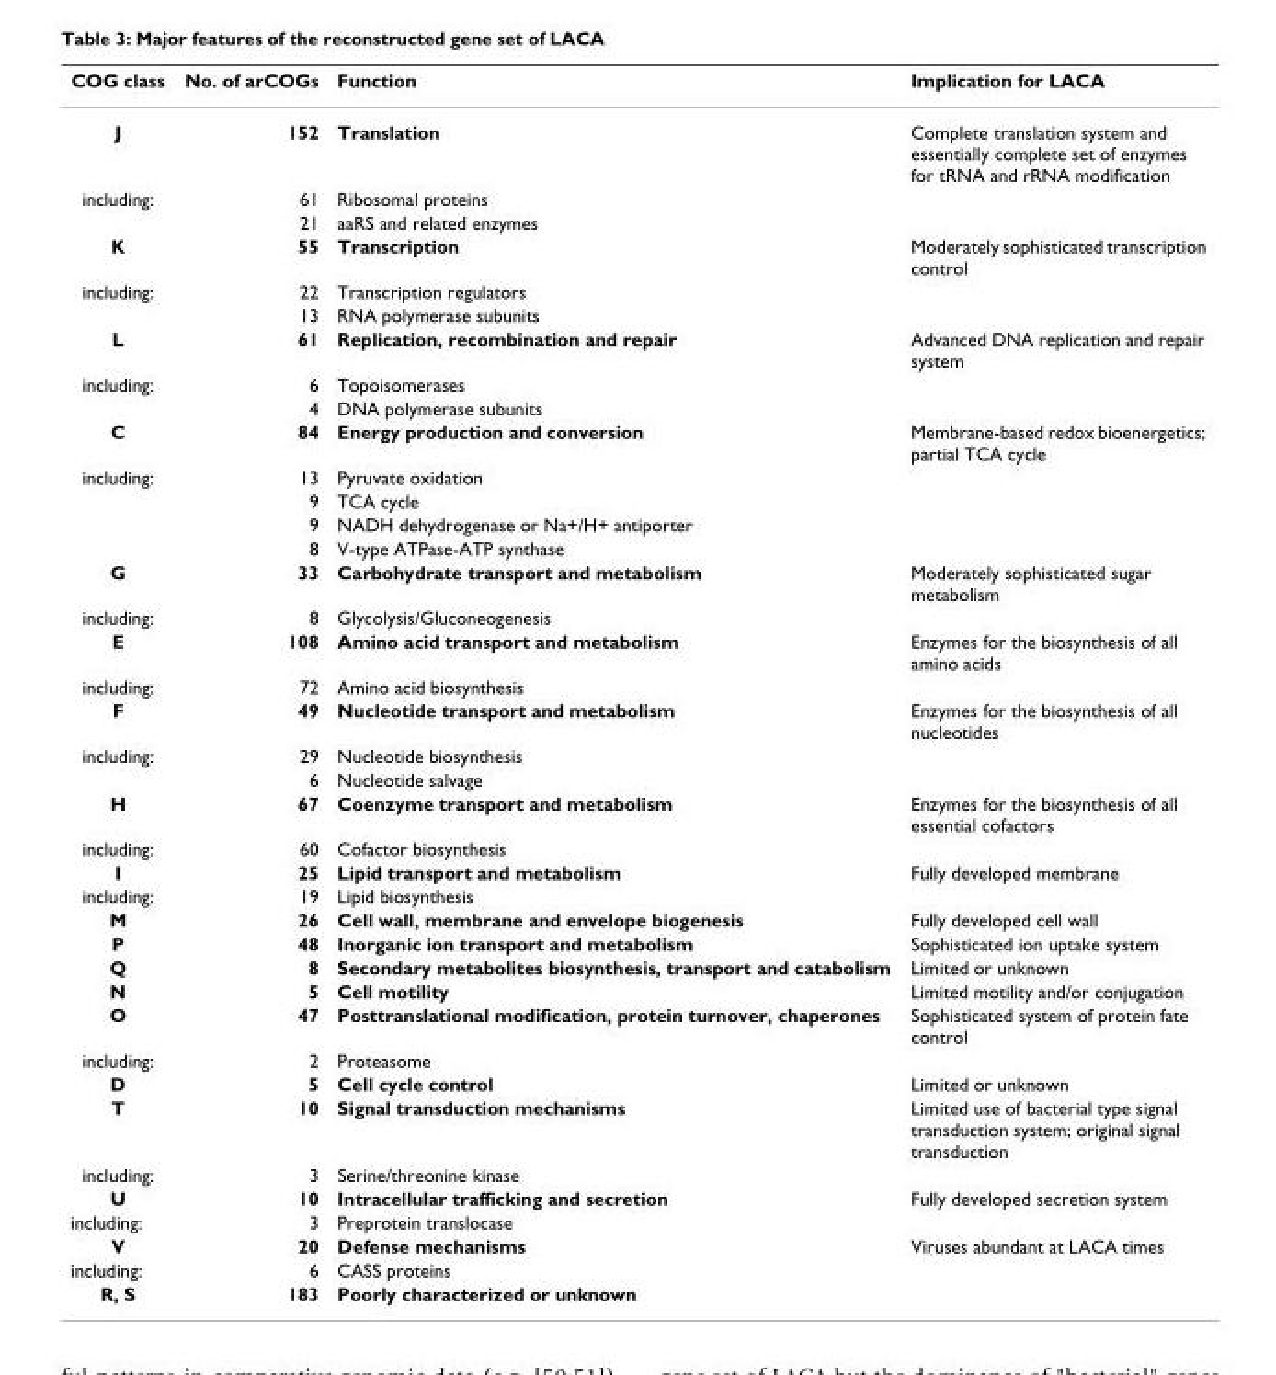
<table><thead><tr><td>COG class</td><td>No. of arCOGs</td><td>Function</td><td>Implication for LACA</td></tr></thead><tbody><tr><td>J</td><td>152</td><td>Translation</td><td>Complete translation system and essentially complete set of enzymes for tRNA and rRNA modification</td></tr><tr><td rowspan="2">including:</td><td>61</td><td>Ribosomal proteins</td><td></td></tr><tr><td>21</td><td>aaRS and related enzymes</td><td></td></tr><tr><td>K</td><td>55</td><td>Transcription</td><td>Moderately sophisticated transcription control</td></tr><tr><td rowspan="2">including:</td><td>22</td><td>Transcription regulators</td><td></td></tr><tr><td>13</td><td>RNA polymerase subunits</td><td></td></tr><tr><td>L</td><td>61</td><td>Replication, recombination and repair</td><td>Advanced DNA replication and repair system</td></tr><tr><td rowspan="2">including:</td><td>6</td><td>Topoisomerases</td><td></td></tr><tr><td>4</td><td>DNA polymerase subunits</td><td></td></tr><tr><td>C</td><td>84</td><td>Energy production and conversion</td><td>Membrane-based redox bioenergetics; partial TCA cycle</td></tr><tr><td rowspan="4">including:</td><td>13</td><td>Pyruvate oxidation</td><td></td></tr><tr><td>9</td><td>TCA cycle</td><td></td></tr><tr><td>9</td><td>NADH dehydrogenase or Na+/H+ antiporter</td><td></td></tr><tr><td>8</td><td>V-type ATPase-ATP synthase</td><td></td></tr><tr><td>G</td><td>33</td><td>Carbohydrate transport and metabolism</td><td>Moderately sophisticated sugar metabolism</td></tr><tr><td>including:</td><td>8</td><td>Glycolysis/Gluconeogenesis</td><td></td></tr><tr><td>E</td><td>108</td><td>Amino acid transport and metabolism</td><td>Enzymes for the biosynthesis of all amino acids</td></tr><tr><td>including:</td><td>72</td><td>Amino acid biosynthesis</td><td></td></tr><tr><td>F</td><td>49</td><td>Nucleotide transport and metabolism</td><td>Enzymes for the biosynthesis of all nucleotides</td></tr><tr><td rowspan="2">including:</td><td>29</td><td>Nucleotide biosynthesis</td><td></td></tr><tr><td>6</td><td>Nucleotide salvage</td><td></td></tr><tr><td>H</td><td>67</td><td>Coenzyme transport and metabolism</td><td>Enzymes for the biosynthesis of all essential cofactors</td></tr><tr><td>including:</td><td>60</td><td>Cofactor biosynthesis</td><td></td></tr><tr><td>I</td><td>25</td><td>Lipid transport and metabolism</td><td>Fully developed membrane</td></tr><tr><td>including:</td><td>19</td><td>Lipid biosynthesis</td><td></td></tr><tr><td>M</td><td>26</td><td>Cell wall, membrane and envelope biogenesis</td><td>Fully developed cell wall</td></tr><tr><td>P</td><td>48</td><td>Inorganic ion transport and metabolism</td><td>Sophisticated ion uptake system</td></tr><tr><td>Q</td><td>8</td><td>Secondary metabolites biosynthesis, transport and catabolism</td><td>Limited or unknown</td></tr><tr><td>N</td><td>5</td><td>Cell motility</td><td>Limited motility and/or conjugation</td></tr><tr><td>O</td><td>47</td><td>Posttranslational modification, protein turnover, chaperones</td><td>Sophisticated system of protein fate control</td></tr><tr><td>including:</td><td>2</td><td>Proteasome</td><td></td></tr><tr><td>D</td><td>5</td><td>Cell cycle control</td><td>Limited or unknown</td></tr><tr><td>T</td><td>10</td><td>Signal transduction mechanisms</td><td>Limited use of bacterial type signal transduction system; original signal transduction</td></tr><tr><td>including:</td><td>3</td><td>Serine/threonine kinase</td><td></td></tr><tr><td>U</td><td>10</td><td>Intracellular trafficking and secretion</td><td>Fully developed secretion system</td></tr><tr><td>including:</td><td>3</td><td>Preprotein translocase</td><td></td></tr><tr><td>V</td><td>20</td><td>Defense mechanisms</td><td>Viruses abundant at LACA times</td></tr><tr><td>including:</td><td>6</td><td>CASS proteins</td><td></td></tr><tr><td>R, S</td><td>183</td><td>Poorly characterized or unknown</td><td></td></tr></tbody></table>